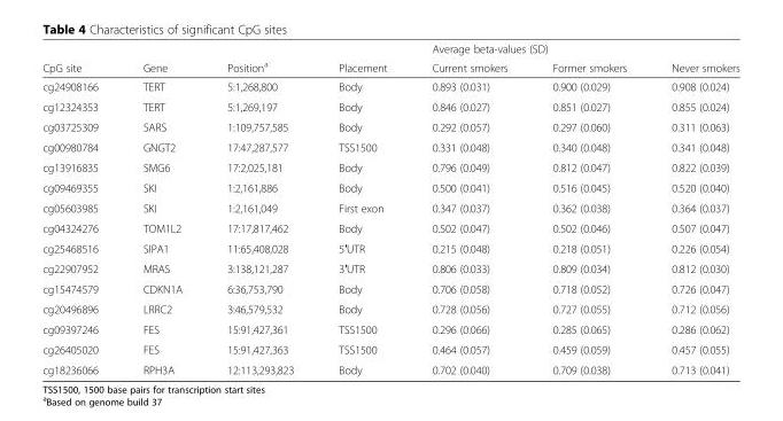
<table><thead><tr><td rowspan="2">CpG site</td><td rowspan="2">Gene</td><td rowspan="2">Position<sup>a</sup></td><td rowspan="2">Placement</td><td colspan="3">Average beta-values (SD)</td></tr><tr><td>Current smokers</td><td>Former smokers</td><td>Never smokers</td></tr></thead><tbody><tr><td>cg24908166</td><td>TERT</td><td>5:1,268,800</td><td>Body</td><td>0.893 (0.031)</td><td>0.900 (0.029)</td><td>0.908 (0.024)</td></tr><tr><td>cg12324353</td><td>TERT</td><td>5:1,269,197</td><td>Body</td><td>0.846 (0.027)</td><td>0.851 (0.027)</td><td>0.855 (0.024)</td></tr><tr><td>cg03725309</td><td>SARS</td><td>1:109,757,585</td><td>Body</td><td>0.292 (0.057)</td><td>0.297 (0.060)</td><td>0.311 (0.063)</td></tr><tr><td>cg00980784</td><td>GNGT2</td><td>17:47,287,577</td><td>TSS1500</td><td>0.331 (0.048)</td><td>0.340 (0.048)</td><td>0.341 (0.048)</td></tr><tr><td>cg13916835</td><td>SMG6</td><td>17:2,025,181</td><td>Body</td><td>0.796 (0.049)</td><td>0.812 (0.047)</td><td>0.822 (0.039)</td></tr><tr><td>cg09469355</td><td>SKI</td><td>1:2,161,886</td><td>Body</td><td>0.500 (0.041)</td><td>0.516 (0.045)</td><td>0.520 (0.040)</td></tr><tr><td>cg05603985</td><td>SKI</td><td>1:2,161,049</td><td>First exon</td><td>0.347 (0.037)</td><td>0.362 (0.038)</td><td>0.364 (0.037)</td></tr><tr><td>cg04324276</td><td>TOM1L2</td><td>17:17,817,462</td><td>Body</td><td>0.502 (0.047)</td><td>0.502 (0.046)</td><td>0.507 (0.047)</td></tr><tr><td>cg25468516</td><td>SIPA1</td><td>11:65,408,028</td><td>5′UTR</td><td>0.215 (0.048)</td><td>0.218 (0.051)</td><td>0.226 (0.054)</td></tr><tr><td>cg22907952</td><td>MRAS</td><td>3:138,121,287</td><td>3′UTR</td><td>0.806 (0.033)</td><td>0.809 (0.034)</td><td>0.812 (0.030)</td></tr><tr><td>cg15474579</td><td>CDKN1A</td><td>6:36,753,790</td><td>Body</td><td>0.706 (0.058)</td><td>0.718 (0.052)</td><td>0.726 (0.047)</td></tr><tr><td>cg20496896</td><td>LRRC2</td><td>3:46,579,532</td><td>Body</td><td>0.728 (0.056)</td><td>0.727 (0.055)</td><td>0.712 (0.056)</td></tr><tr><td>cg09397246</td><td>FES</td><td>15:91,427,361</td><td>TSS1500</td><td>0.296 (0.066)</td><td>0.285 (0.065)</td><td>0.286 (0.062)</td></tr><tr><td>cg26405020</td><td>FES</td><td>15:91,427,363</td><td>TSS1500</td><td>0.464 (0.057)</td><td>0.459 (0.059)</td><td>0.457 (0.055)</td></tr><tr><td>cg18236066</td><td>RPH3A</td><td>12:113,293,823</td><td>Body</td><td>0.702 (0.040)</td><td>0.709 (0.038)</td><td>0.713 (0.041)</td></tr></tbody></table>